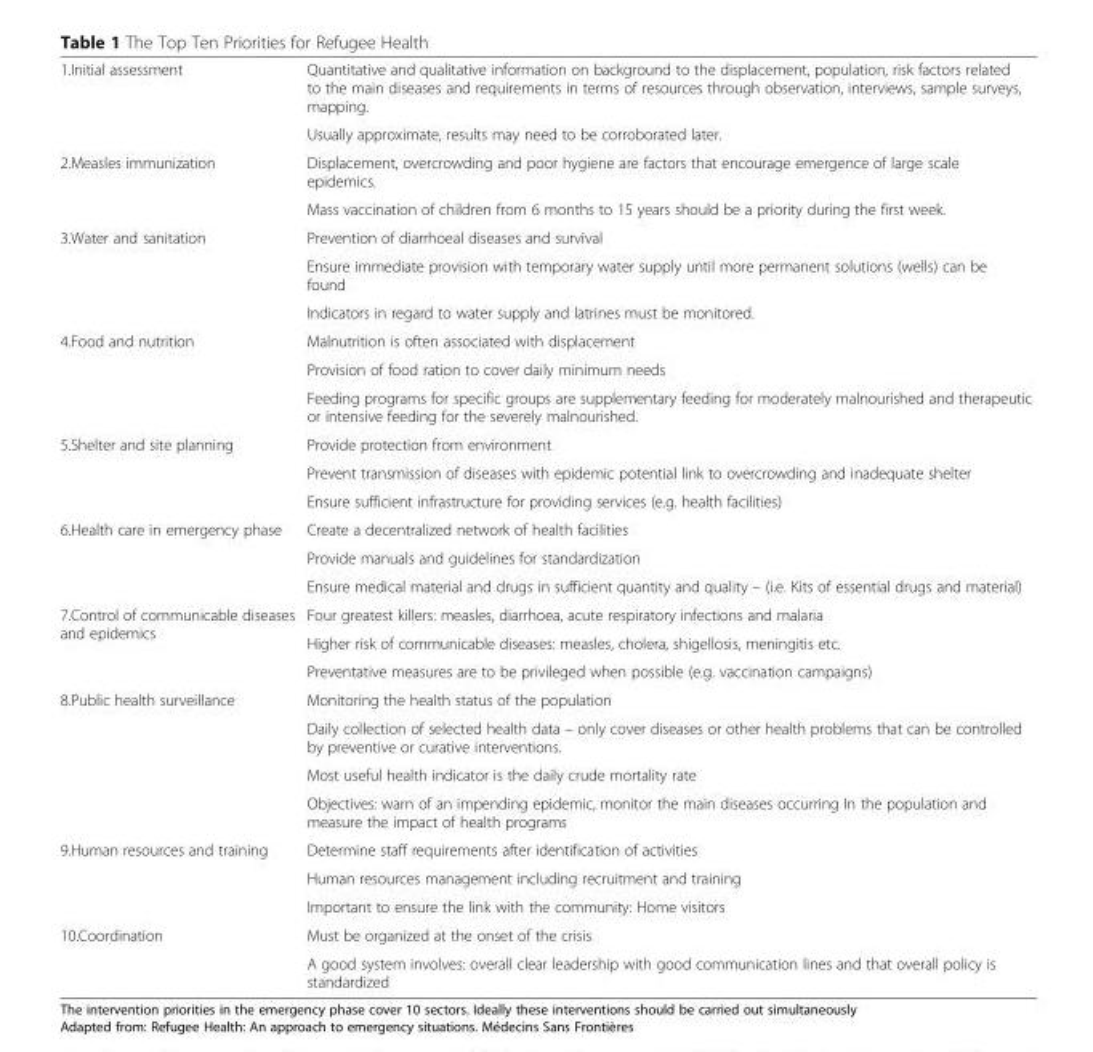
<table><tbody><tr><td rowspan="2">1.Initial assessment</td><td>Quantitative and qualitative information on background to the displacement, population, risk factors related to the main diseases and requirements in terms of resources through observation, interviews, sample surveys, mapping.</td></tr><tr><td>Usually approximate, results may need to be corroborated later.</td></tr><tr><td rowspan="2">2.Measles immunization</td><td>Displacement, overcrowding and poor hygiene are factors that encourage emergence of large scale epidemics.</td></tr><tr><td>Mass vaccination of children from 6 months to 15 years should be a priority during the first week.</td></tr><tr><td rowspan="3">3.Water and sanitation</td><td>Prevention of diarrhoeal diseases and survival</td></tr><tr><td>Ensure immediate provision with temporary water supply until more permanent solutions (wells) can be found</td></tr><tr><td>Indicators in regard to water supply and latrines must be monitored.</td></tr><tr><td rowspan="3">4.Food and nutrition</td><td>Malnutrition is often associated with displacement</td></tr><tr><td>Provision of food ration to cover daily minimum needs</td></tr><tr><td>Feeding programs for specific groups are supplementary feeding for moderately malnourished and therapeutic or intensive feeding for the severely malnourished.</td></tr><tr><td rowspan="3">5.Shelter and site planning</td><td>Provide protection from environment</td></tr><tr><td>Prevent transmission of diseases with epidemic potential link to overcrowding and inadequate shelter</td></tr><tr><td>Ensure sufficient infrastructure for providing services (e.g. health facilities)</td></tr><tr><td rowspan="3">6.Health care in emergency phase</td><td>Create a decentralized network of health facilities</td></tr><tr><td>Provide manuals and guidelines for standardization</td></tr><tr><td>Ensure medical material and drugs in sufficient quantity and quality – (i.e. Kits of essential drugs and material)</td></tr><tr><td rowspan="3">7.Control of communicable diseases and epidemics</td><td>Four greatest killers: measles, diarrhoea, acute respiratory infections and malaria</td></tr><tr><td>Higher risk of communicable diseases: measles, cholera, shigellosis, meningitis etc.</td></tr><tr><td>Preventative measures are to be privileged when possible (e.g. vaccination campaigns)</td></tr><tr><td rowspan="4">8.Public health surveillance</td><td>Monitoring the health status of the population</td></tr><tr><td>Daily collection of selected health data – only cover diseases or other health problems that can be controlled by preventive or curative interventions.</td></tr><tr><td>Most useful health indicator is the daily crude mortality rate</td></tr><tr><td>Objectives: warn of an impending epidemic, monitor the main diseases occurring In the population and measure the impact of health programs</td></tr><tr><td rowspan="3">9.Human resources and training</td><td>Determine staff requirements after identification of activities</td></tr><tr><td>Human resources management including recruitment and training</td></tr><tr><td>Important to ensure the link with the community: Home visitors</td></tr><tr><td rowspan="2">10.Coordination</td><td>Must be organized at the onset of the crisis</td></tr><tr><td>A good system involves: overall clear leadership with good communication lines and that overall policy is standardized</td></tr></tbody></table>